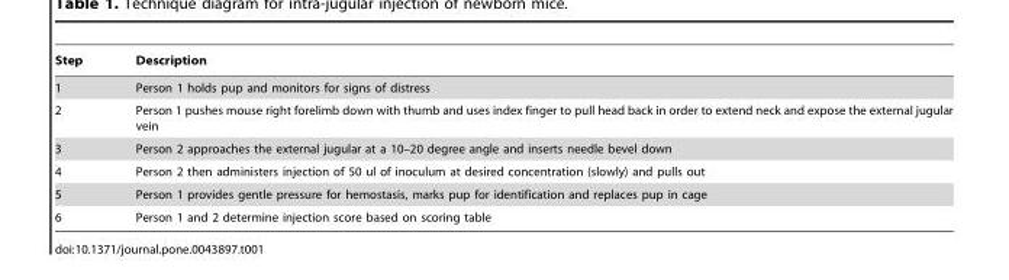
<table><thead><tr><td>Step</td><td>Description</td></tr></thead><tbody><tr><td>1</td><td>Person 1 holds pup and monitors for signs of distress</td></tr><tr><td>2</td><td>Person 1 pushes mouse right forelimb down with thumb and uses index finger to pull head back in order to extend neck and expose the external jugular vein</td></tr><tr><td>3</td><td>Person 2 approaches the external jugular at a 10–20 degree angle and inserts needle bevel down</td></tr><tr><td>4</td><td>Person 2 then administers injection of 50 ul of inoculum at desired concentration (slowly) and pulls out</td></tr><tr><td>5</td><td>Person 1 provides gentle pressure for hemostasis, marks pup for identification and replaces pup in cage</td></tr><tr><td>6</td><td>Person 1 and 2 determine injection score based on scoring table</td></tr></tbody></table>